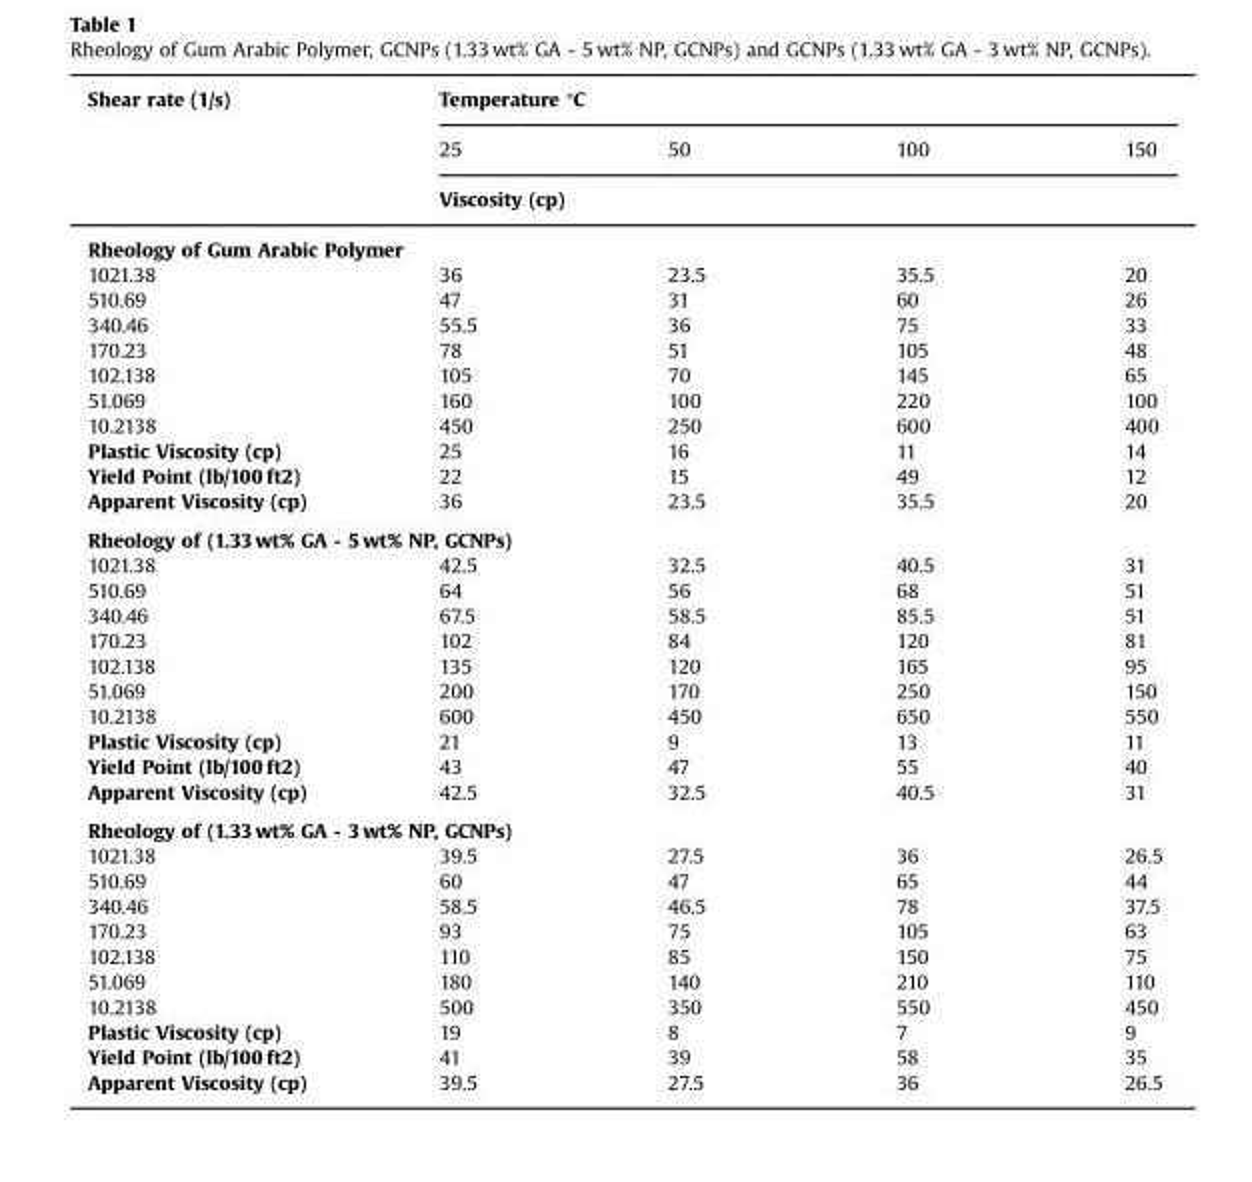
<table><thead><tr><td rowspan="3">Shear rate (1/s)</td><td colspan="4">Temperature °C</td></tr><tr><td>25</td><td>50</td><td>100</td><td>150</td></tr><tr><td colspan="4">Viscosity (cp)</td></tr></thead><tbody><tr><td colspan="5">Rheology of Gum Arabic Polymer</td></tr><tr><td>1021.38</td><td>36</td><td>23.5</td><td>35.5</td><td>20</td></tr><tr><td>510.69</td><td>47</td><td>31</td><td>60</td><td>26</td></tr><tr><td>340.46</td><td>55.5</td><td>36</td><td>75</td><td>33</td></tr><tr><td>170.23</td><td>78</td><td>51</td><td>105</td><td>48</td></tr><tr><td>102.138</td><td>105</td><td>70</td><td>145</td><td>65</td></tr><tr><td>51.069</td><td>160</td><td>100</td><td>220</td><td>100</td></tr><tr><td>10.2138</td><td>450</td><td>250</td><td>600</td><td>400</td></tr><tr><td>Plastic Viscosity (cp)</td><td>25</td><td>16</td><td>11</td><td>14</td></tr><tr><td>Yield Point (lb/100 ft2)</td><td>22</td><td>15</td><td>49</td><td>12</td></tr><tr><td>Apparent Viscosity (cp)</td><td>36</td><td>23.5</td><td>35.5</td><td>20</td></tr><tr><td colspan="5">Rheology of (1.33 wt% GA - 5 wt% NP, GCNPs)</td></tr><tr><td>1021.38</td><td>42.5</td><td>32.5</td><td>40.5</td><td>31</td></tr><tr><td>510.69</td><td>64</td><td>56</td><td>68</td><td>51</td></tr><tr><td>340.46</td><td>67.5</td><td>58.5</td><td>85.5</td><td>51</td></tr><tr><td>170.23</td><td>102</td><td>84</td><td>120</td><td>81</td></tr><tr><td>102.138</td><td>135</td><td>120</td><td>165</td><td>95</td></tr><tr><td>51.069</td><td>200</td><td>170</td><td>250</td><td>150</td></tr><tr><td>10.2138</td><td>600</td><td>450</td><td>650</td><td>550</td></tr><tr><td>Plastic Viscosity (cp)</td><td>21</td><td>9</td><td>13</td><td>11</td></tr><tr><td>Yield Point (lb/100 ft2)</td><td>43</td><td>47</td><td>55</td><td>40</td></tr><tr><td>Apparent Viscosity (cp)</td><td>42.5</td><td>32.5</td><td>40.5</td><td>31</td></tr><tr><td colspan="5">Rheology of (1.33 wt% GA - 3 wt% NP, GCNPs)</td></tr><tr><td>1021.38</td><td>39.5</td><td>27.5</td><td>36</td><td>26.5</td></tr><tr><td>510.69</td><td>60</td><td>47</td><td>65</td><td>44</td></tr><tr><td>340.46</td><td>58.5</td><td>46.5</td><td>78</td><td>37.5</td></tr><tr><td>170.23</td><td>93</td><td>75</td><td>105</td><td>63</td></tr><tr><td>102.138</td><td>110</td><td>85</td><td>150</td><td>75</td></tr><tr><td>51.069</td><td>180</td><td>140</td><td>210</td><td>110</td></tr><tr><td>10.2138</td><td>500</td><td>350</td><td>550</td><td>450</td></tr><tr><td>Plastic Viscosity (cp)</td><td>19</td><td>8</td><td>7</td><td>9</td></tr><tr><td>Yield Point (lb/100 ft2)</td><td>41</td><td>39</td><td>58</td><td>35</td></tr><tr><td>Apparent Viscosity (cp)</td><td>39.5</td><td>27.5</td><td>36</td><td>26.5</td></tr></tbody></table>